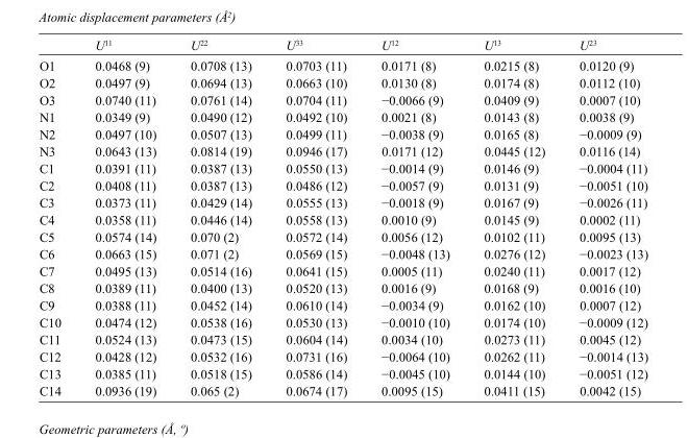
<table><thead><tr><td></td><td>U<sup>11</sup></td><td>U<sup>22</sup></td><td>U<sup>33</sup></td><td>U<sup>12</sup></td><td>U<sup>13</sup></td><td>U<sup>23</sup></td></tr></thead><tbody><tr><td>O1</td><td>0.0468 (9)</td><td>0.0708 (13)</td><td>0.0703 (11)</td><td>0.0171 (8)</td><td>0.0215 (8)</td><td>0.0120 (9)</td></tr><tr><td>O2</td><td>0.0497 (9)</td><td>0.0694 (13)</td><td>0.0663 (10)</td><td>0.0130 (8)</td><td>0.0174 (8)</td><td>0.0112 (10)</td></tr><tr><td>O3</td><td>0.0740 (11)</td><td>0.0761 (14)</td><td>0.0704 (11)</td><td>−0.0066 (9)</td><td>0.0409 (9)</td><td>0.0007 (10)</td></tr><tr><td>N1</td><td>0.0349 (9)</td><td>0.0490 (12)</td><td>0.0492 (10)</td><td>0.0021 (8)</td><td>0.0143 (8)</td><td>0.0038 (9)</td></tr><tr><td>N2</td><td>0.0497 (10)</td><td>0.0507 (13)</td><td>0.0499 (11)</td><td>−0.0038 (9)</td><td>0.0165 (8)</td><td>−0.0009 (9)</td></tr><tr><td>N3</td><td>0.0643 (13)</td><td>0.0814 (19)</td><td>0.0946 (17)</td><td>0.0171 (12)</td><td>0.0445 (12)</td><td>0.0116 (14)</td></tr><tr><td>C1</td><td>0.0391 (11)</td><td>0.0387 (13)</td><td>0.0550 (13)</td><td>−0.0014 (9)</td><td>0.0146 (9)</td><td>−0.0004 (11)</td></tr><tr><td>C2</td><td>0.0408 (11)</td><td>0.0387 (13)</td><td>0.0486 (12)</td><td>−0.0057 (9)</td><td>0.0131 (9)</td><td>−0.0051 (10)</td></tr><tr><td>C3</td><td>0.0373 (11)</td><td>0.0429 (14)</td><td>0.0555 (13)</td><td>−0.0018 (9)</td><td>0.0167 (9)</td><td>−0.0026 (11)</td></tr><tr><td>C4</td><td>0.0358 (11)</td><td>0.0446 (14)</td><td>0.0558 (13)</td><td>0.0010 (9)</td><td>0.0145 (9)</td><td>0.0002 (11)</td></tr><tr><td>C5</td><td>0.0574 (14)</td><td>0.070 (2)</td><td>0.0572 (14)</td><td>0.0056 (12)</td><td>0.0102 (11)</td><td>0.0095 (13)</td></tr><tr><td>C6</td><td>0.0663 (15)</td><td>0.071 (2)</td><td>0.0569 (15)</td><td>−0.0048 (13)</td><td>0.0276 (12)</td><td>−0.0023 (13)</td></tr><tr><td>C7</td><td>0.0495 (13)</td><td>0.0514 (16)</td><td>0.0641 (15)</td><td>0.0005 (11)</td><td>0.0240 (11)</td><td>0.0017 (12)</td></tr><tr><td>C8</td><td>0.0389 (11)</td><td>0.0400 (13)</td><td>0.0520 (13)</td><td>0.0016 (9)</td><td>0.0168 (9)</td><td>0.0016 (10)</td></tr><tr><td>C9</td><td>0.0388 (11)</td><td>0.0452 (14)</td><td>0.0610 (14)</td><td>−0.0034 (9)</td><td>0.0162 (10)</td><td>0.0007 (12)</td></tr><tr><td>C10</td><td>0.0474 (12)</td><td>0.0538 (16)</td><td>0.0530 (13)</td><td>−0.0010 (10)</td><td>0.0174 (10)</td><td>−0.0009 (12)</td></tr><tr><td>C11</td><td>0.0524 (13)</td><td>0.0473 (15)</td><td>0.0604 (14)</td><td>0.0034 (10)</td><td>0.0273 (11)</td><td>0.0045 (12)</td></tr><tr><td>C12</td><td>0.0428 (12)</td><td>0.0532 (16)</td><td>0.0731 (16)</td><td>−0.0064 (10)</td><td>0.0262 (11)</td><td>−0.0014 (13)</td></tr><tr><td>C13</td><td>0.0385 (11)</td><td>0.0518 (15)</td><td>0.0586 (14)</td><td>−0.0045 (10)</td><td>0.0144 (10)</td><td>−0.0051 (12)</td></tr><tr><td>C14</td><td>0.0936 (19)</td><td>0.065 (2)</td><td>0.0674 (17)</td><td>0.0095 (15)</td><td>0.0411 (15)</td><td>0.0042 (15)</td></tr></tbody></table>